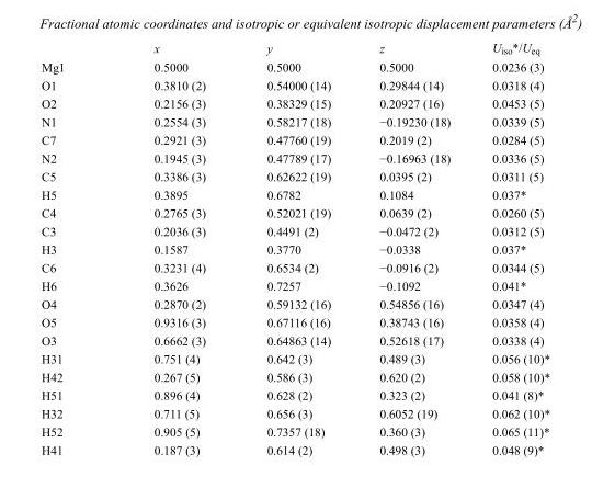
<table><thead><tr><td></td><td>x</td><td>y</td><td>z</td><td>U<sub>iso</sub>*/U<sub>eq</sub></td></tr></thead><tbody><tr><td>Mg1</td><td>0.5000</td><td>0.5000</td><td>0.5000</td><td>0.0236 (3)</td></tr><tr><td>O1</td><td>0.3810 (2)</td><td>0.54000 (14)</td><td>0.29844 (14)</td><td>0.0318 (4)</td></tr><tr><td>O2</td><td>0.2156 (3)</td><td>0.38329 (15)</td><td>0.20927 (16)</td><td>0.0453 (5)</td></tr><tr><td>N1</td><td>0.2554 (3)</td><td>0.58217 (18)</td><td>−0.19230 (18)</td><td>0.0339 (5)</td></tr><tr><td>C7</td><td>0.2921 (3)</td><td>0.47760 (19)</td><td>0.2019 (2)</td><td>0.0284 (5)</td></tr><tr><td>N2</td><td>0.1945 (3)</td><td>0.47789 (17)</td><td>−0.16963 (18)</td><td>0.0336 (5)</td></tr><tr><td>C5</td><td>0.3386 (3)</td><td>0.62622 (19)</td><td>0.0395 (2)</td><td>0.0311 (5)</td></tr><tr><td>H5</td><td>0.3895</td><td>0.6782</td><td>0.1084</td><td>0.037*</td></tr><tr><td>C4</td><td>0.2765 (3)</td><td>0.52021 (19)</td><td>0.0639 (2)</td><td>0.0260 (5)</td></tr><tr><td>C3</td><td>0.2036 (3)</td><td>0.4491 (2)</td><td>−0.0472 (2)</td><td>0.0312 (5)</td></tr><tr><td>H3</td><td>0.1587</td><td>0.3770</td><td>−0.0338</td><td>0.037*</td></tr><tr><td>C6</td><td>0.3231 (4)</td><td>0.6534 (2)</td><td>−0.0916 (2)</td><td>0.0344 (5)</td></tr><tr><td>H6</td><td>0.3626</td><td>0.7257</td><td>−0.1092</td><td>0.041*</td></tr><tr><td>O4</td><td>0.2870 (2)</td><td>0.59132 (16)</td><td>0.54856 (16)</td><td>0.0347 (4)</td></tr><tr><td>O5</td><td>0.9316 (3)</td><td>0.67116 (16)</td><td>0.38743 (16)</td><td>0.0358 (4)</td></tr><tr><td>O3</td><td>0.6662 (3)</td><td>0.64863 (14)</td><td>0.52618 (17)</td><td>0.0338 (4)</td></tr><tr><td>H31</td><td>0.751 (4)</td><td>0.642 (3)</td><td>0.489 (3)</td><td>0.056 (10)*</td></tr><tr><td>H42</td><td>0.267 (5)</td><td>0.586 (3)</td><td>0.620 (2)</td><td>0.058 (10)*</td></tr><tr><td>H51</td><td>0.896 (4)</td><td>0.628 (2)</td><td>0.323 (2)</td><td>0.041 (8)*</td></tr><tr><td>H32</td><td>0.711 (5)</td><td>0.656 (3)</td><td>0.6052 (19)</td><td>0.062 (10)*</td></tr><tr><td>H52</td><td>0.905 (5)</td><td>0.7357 (18)</td><td>0.360 (3)</td><td>0.065 (11)*</td></tr><tr><td>H41</td><td>0.187 (3)</td><td>0.614 (2)</td><td>0.498 (3)</td><td>0.048 (9)*</td></tr></tbody></table>